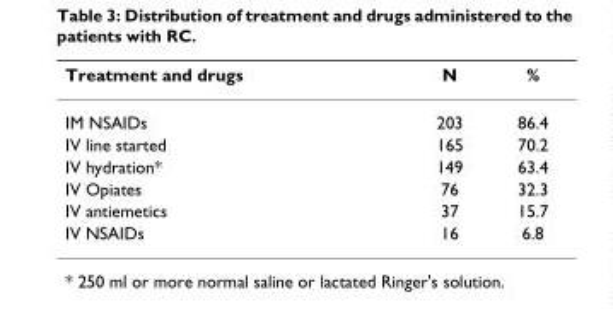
<table><thead><tr><td>Treatment and drugs</td><td>N</td><td>%</td></tr></thead><tbody><tr><td>IM NSAIDs</td><td>203</td><td>86.4</td></tr><tr><td>IV line started</td><td>165</td><td>70.2</td></tr><tr><td>IV hydration*</td><td>149</td><td>63.4</td></tr><tr><td>IV Opiates</td><td>76</td><td>32.3</td></tr><tr><td>IV antiemetics</td><td>37</td><td>15.7</td></tr><tr><td>IV NSAIDs</td><td>16</td><td>6.8</td></tr></tbody></table>